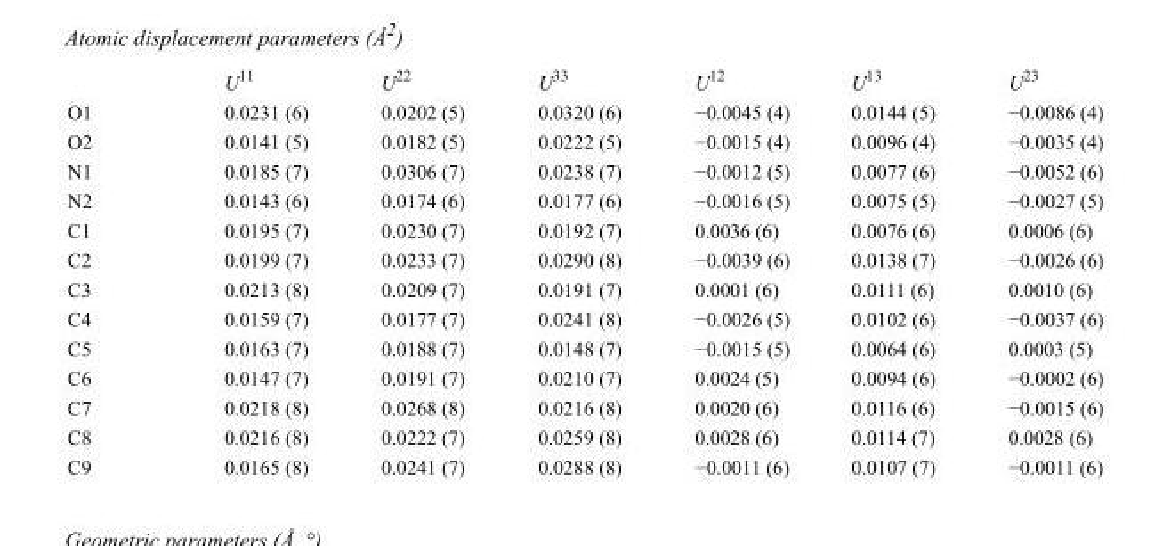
<table><thead><tr><td></td><td>U<sup>11</sup></td><td>U<sup>22</sup></td><td>U<sup>33</sup></td><td>U<sup>12</sup></td><td>U<sup>13</sup></td><td>U<sup>23</sup></td></tr></thead><tbody><tr><td>O1</td><td>0.0231 (6)</td><td>0.0202 (5)</td><td>0.0320 (6)</td><td>−0.0045 (4)</td><td>0.0144 (5)</td><td>−0.0086 (4)</td></tr><tr><td>O2</td><td>0.0141 (5)</td><td>0.0182 (5)</td><td>0.0222 (5)</td><td>−0.0015 (4)</td><td>0.0096 (4)</td><td>−0.0035 (4)</td></tr><tr><td>N1</td><td>0.0185 (7)</td><td>0.0306 (7)</td><td>0.0238 (7)</td><td>−0.0012 (5)</td><td>0.0077 (6)</td><td>−0.0052 (6)</td></tr><tr><td>N2</td><td>0.0143 (6)</td><td>0.0174 (6)</td><td>0.0177 (6)</td><td>−0.0016 (5)</td><td>0.0075 (5)</td><td>−0.0027 (5)</td></tr><tr><td>C1</td><td>0.0195 (7)</td><td>0.0230 (7)</td><td>0.0192 (7)</td><td>0.0036 (6)</td><td>0.0076 (6)</td><td>0.0006 (6)</td></tr><tr><td>C2</td><td>0.0199 (7)</td><td>0.0233 (7)</td><td>0.0290 (8)</td><td>−0.0039 (6)</td><td>0.0138 (7)</td><td>−0.0026 (6)</td></tr><tr><td>C3</td><td>0.0213 (8)</td><td>0.0209 (7)</td><td>0.0191 (7)</td><td>0.0001 (6)</td><td>0.0111 (6)</td><td>0.0010 (6)</td></tr><tr><td>C4</td><td>0.0159 (7)</td><td>0.0177 (7)</td><td>0.0241 (8)</td><td>−0.0026 (5)</td><td>0.0102 (6)</td><td>−0.0037 (6)</td></tr><tr><td>C5</td><td>0.0163 (7)</td><td>0.0188 (7)</td><td>0.0148 (7)</td><td>−0.0015 (5)</td><td>0.0064 (6)</td><td>0.0003 (5)</td></tr><tr><td>C6</td><td>0.0147 (7)</td><td>0.0191 (7)</td><td>0.0210 (7)</td><td>0.0024 (5)</td><td>0.0094 (6)</td><td>−0.0002 (6)</td></tr><tr><td>C7</td><td>0.0218 (8)</td><td>0.0268 (8)</td><td>0.0216 (8)</td><td>0.0020 (6)</td><td>0.0116 (6)</td><td>−0.0015 (6)</td></tr><tr><td>C8</td><td>0.0216 (8)</td><td>0.0222 (7)</td><td>0.0259 (8)</td><td>0.0028 (6)</td><td>0.0114 (7)</td><td>0.0028 (6)</td></tr><tr><td>C9</td><td>0.0165 (8)</td><td>0.0241 (7)</td><td>0.0288 (8)</td><td>−0.0011 (6)</td><td>0.0107 (7)</td><td>−0.0011 (6)</td></tr></tbody></table>